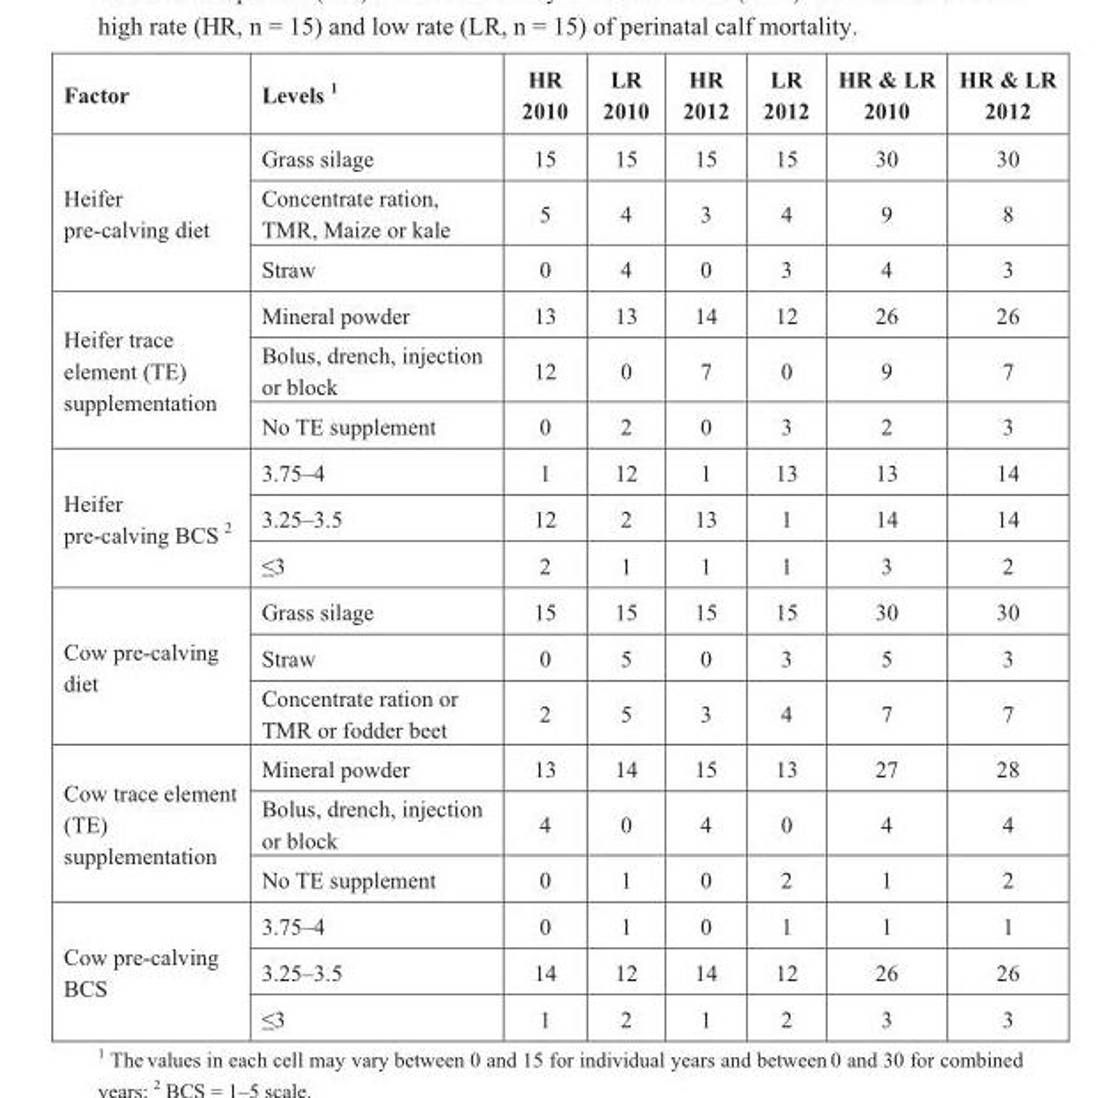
<table><thead><tr><td>Factor</td><td>Levels <sup>1</sup></td><td>HR 2010</td><td>LR 2010</td><td>HR 2012</td><td>LR 2012</td><td>HR &amp; LR 2010</td><td>HR &amp; LR 2012</td></tr></thead><tbody><tr><td rowspan="3">Heifer pre-calving diet</td><td>Grass silage</td><td>15</td><td>15</td><td>15</td><td>15</td><td>30</td><td>30</td></tr><tr><td>Concentrate ration, TMR, Maize or kale</td><td>5</td><td>4</td><td>3</td><td>4</td><td>9</td><td>8</td></tr><tr><td>Straw</td><td>0</td><td>4</td><td>0</td><td>3</td><td>4</td><td>3</td></tr><tr><td rowspan="3">Heifer trace element (TE) supplementation</td><td>Mineral powder</td><td>13</td><td>13</td><td>14</td><td>12</td><td>26</td><td>26</td></tr><tr><td>Bolus, drench, injection or block</td><td>12</td><td>0</td><td>7</td><td>0</td><td>9</td><td>7</td></tr><tr><td>No TE supplement</td><td>0</td><td>2</td><td>0</td><td>3</td><td>2</td><td>3</td></tr><tr><td rowspan="3">Heifer pre-calving BCS <sup>2</sup></td><td>3.75–4</td><td>1</td><td>12</td><td>1</td><td>13</td><td>13</td><td>14</td></tr><tr><td>3.25–3.5</td><td>12</td><td>2</td><td>13</td><td>1</td><td>14</td><td>14</td></tr><tr><td>≤3</td><td>2</td><td>1</td><td>1</td><td>1</td><td>3</td><td>2</td></tr><tr><td rowspan="3">Cow pre-calving diet</td><td>Grass silage</td><td>15</td><td>15</td><td>15</td><td>15</td><td>30</td><td>30</td></tr><tr><td>Straw</td><td>0</td><td>5</td><td>0</td><td>3</td><td>5</td><td>3</td></tr><tr><td>Concentrate ration or TMR or fodder beet</td><td>2</td><td>5</td><td>3</td><td>4</td><td>7</td><td>7</td></tr><tr><td rowspan="3">Cow trace element (TE) supplementation</td><td>Mineral powder</td><td>13</td><td>14</td><td>15</td><td>13</td><td>27</td><td>28</td></tr><tr><td>Bolus, drench, injection or block</td><td>4</td><td>0</td><td>4</td><td>0</td><td>4</td><td>4</td></tr><tr><td>No TE supplement</td><td>0</td><td>1</td><td>0</td><td>2</td><td>1</td><td>2</td></tr><tr><td rowspan="3">Cow pre-calving BCS</td><td>3.75–4</td><td>0</td><td>1</td><td>0</td><td>1</td><td>1</td><td>1</td></tr><tr><td>3.25–3.5</td><td>14</td><td>12</td><td>14</td><td>12</td><td>26</td><td>26</td></tr><tr><td>≤3</td><td>1</td><td>2</td><td>1</td><td>2</td><td>3</td><td>3</td></tr></tbody></table>